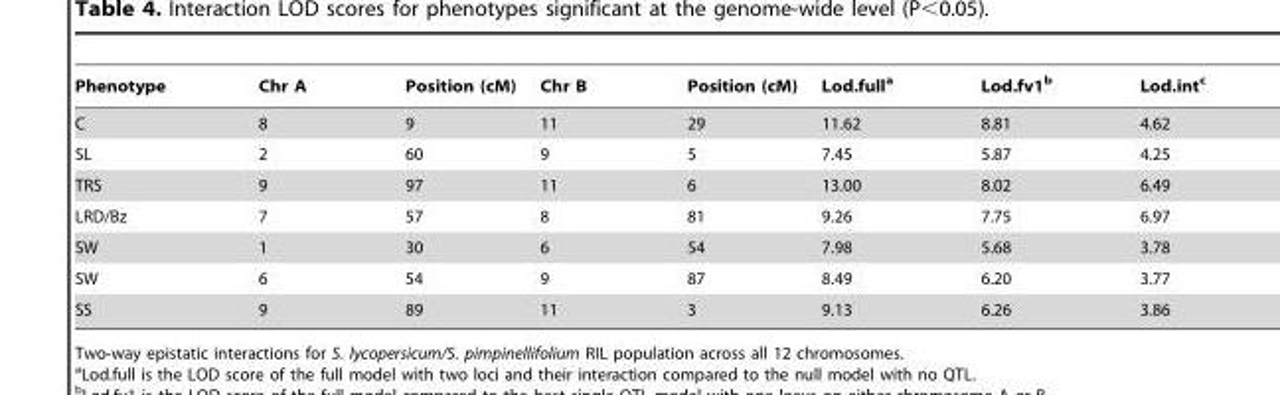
<table><thead><tr><td>Phenotype</td><td>Chr A</td><td>Position (cM)</td><td>Chr B</td><td>Position (cM)</td><td>Lod.full<sup>a</sup></td><td>Lod.fv1<sup>b</sup></td><td>Lod.int<sup>c</sup></td></tr></thead><tbody><tr><td>C</td><td>8</td><td>9</td><td>11</td><td>29</td><td>11.62</td><td>8.81</td><td>4.62</td></tr><tr><td>SL</td><td>2</td><td>60</td><td>9</td><td>5</td><td>7.45</td><td>5.87</td><td>4.25</td></tr><tr><td>TRS</td><td>9</td><td>97</td><td>11</td><td>6</td><td>13.00</td><td>8.02</td><td>6.49</td></tr><tr><td>LRD/Bz</td><td>7</td><td>57</td><td>8</td><td>81</td><td>9.26</td><td>7.75</td><td>6.97</td></tr><tr><td>SW</td><td>1</td><td>30</td><td>6</td><td>54</td><td>7.98</td><td>5.68</td><td>3.78</td></tr><tr><td>SW</td><td>6</td><td>54</td><td>9</td><td>87</td><td>8.49</td><td>6.20</td><td>3.77</td></tr><tr><td>SS</td><td>9</td><td>89</td><td>11</td><td>3</td><td>9.13</td><td>6.26</td><td>3.86</td></tr></tbody></table>